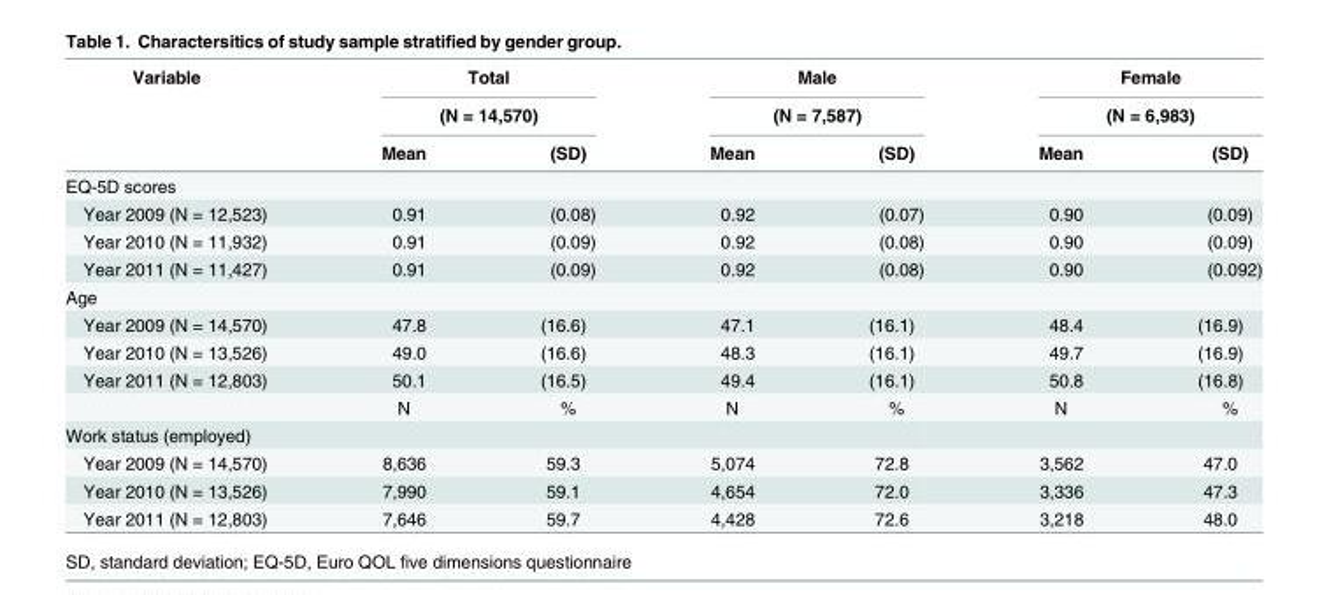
<table><thead><tr><td rowspan="3">Variable</td><td rowspan="2" colspan="2">Total (N = 14,570)</td><td rowspan="2" colspan="2">Male (N = 7,587)</td><td rowspan="2" colspan="2">Female (N = 6,983)</td></tr><tr></tr><tr><td>Mean</td><td>(SD)</td><td>Mean</td><td>(SD)</td><td>Mean</td><td>(SD)</td></tr></thead><tbody><tr><td colspan="7">EQ-5D scores</td></tr><tr><td>Year 2009 (N = 12,523)</td><td>0.91</td><td>(0.08)</td><td>0.92</td><td>(0.07)</td><td>0.90</td><td>(0.09)</td></tr><tr><td>Year 2010 (N = 11,932)</td><td>0.91</td><td>(0.09)</td><td>0.92</td><td>(0.08)</td><td>0.90</td><td>(0.09)</td></tr><tr><td>Year 2011 (N = 11,427)</td><td>0.91</td><td>(0.09)</td><td>0.92</td><td>(0.08)</td><td>0.90</td><td>(0.092)</td></tr><tr><td colspan="7">Age</td></tr><tr><td>Year 2009 (N = 14,570)</td><td>47.8</td><td>(16.6)</td><td>47.1</td><td>(16.1)</td><td>48.4</td><td>(16.9)</td></tr><tr><td>Year 2010 (N = 13,526)</td><td>49.0</td><td>(16.6)</td><td>48.3</td><td>(16.1)</td><td>49.7</td><td>(16.9)</td></tr><tr><td rowspan="2">Year 2011 (N = 12,803)</td><td>50.1</td><td>(16.5)</td><td>49.4</td><td>(16.1)</td><td>50.8</td><td>(16.8)</td></tr><tr><td>N</td><td>%</td><td>N</td><td>%</td><td>N</td><td>%</td></tr><tr><td colspan="7">Work status (employed)</td></tr><tr><td>Year 2009 (N = 14,570)</td><td>8,636</td><td>59.3</td><td>5,074</td><td>72.8</td><td>3,562</td><td>47.0</td></tr><tr><td>Year 2010 (N = 13,526)</td><td>7,990</td><td>59.1</td><td>4,654</td><td>72.0</td><td>3,336</td><td>47.3</td></tr><tr><td>Year 2011 (N = 12,803)</td><td>7,646</td><td>59.7</td><td>4,428</td><td>72.6</td><td>3,218</td><td>48.0</td></tr></tbody></table>